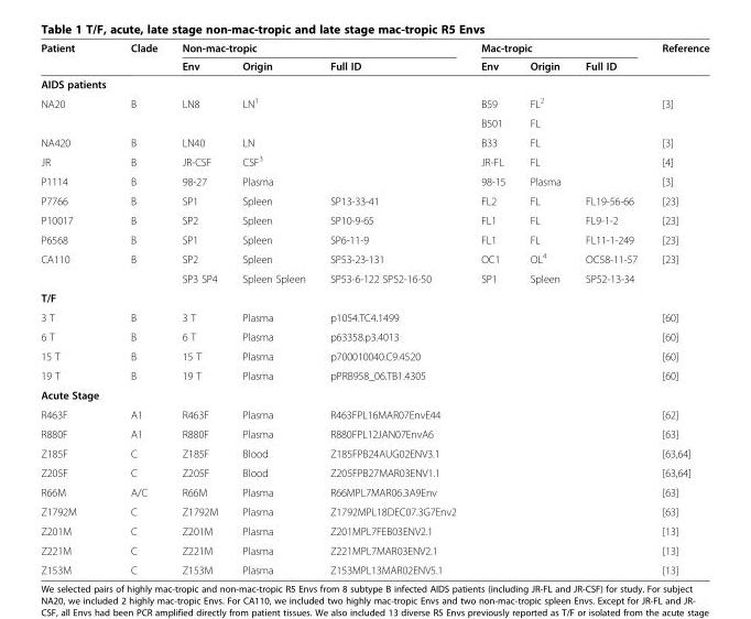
<table><thead><tr><td rowspan="2">Patient</td><td rowspan="2">Clade</td><td colspan="3">Non-mac-tropic</td><td colspan="3">Mac-tropic</td><td rowspan="2">Reference</td></tr><tr><td>Env</td><td>Origin</td><td>Full ID</td><td>Env</td><td>Origin</td><td>Full ID</td></tr></thead><tbody><tr><td colspan="9">AIDS patients</td></tr><tr><td rowspan="2">NA20</td><td>B</td><td>LN8</td><td>LN<sup>1</sup></td><td></td><td>B59</td><td>FL<sup>2</sup></td><td></td><td>[3]</td></tr><tr><td></td><td></td><td></td><td></td><td>B501</td><td>FL</td><td></td><td></td></tr><tr><td>NA420</td><td>B</td><td>LN40</td><td>LN</td><td></td><td>B33</td><td>FL</td><td></td><td>[3]</td></tr><tr><td>JR</td><td>B</td><td>JR-CSF</td><td>CSF<sup>3</sup></td><td></td><td>JR-FL</td><td>FL</td><td></td><td>[4]</td></tr><tr><td>P1114</td><td>B</td><td>98-27</td><td>Plasma</td><td></td><td>98-15</td><td>Plasma</td><td></td><td>[3]</td></tr><tr><td>P7766</td><td>B</td><td>SP1</td><td>Spleen</td><td>SP13-33-41</td><td>FL2</td><td>FL</td><td>FL19-56-66</td><td>[23]</td></tr><tr><td>P10017</td><td>B</td><td>SP2</td><td>Spleen</td><td>SP10-9-65</td><td>FL1</td><td>FL</td><td>FL9-1-2</td><td>[23]</td></tr><tr><td>P6568</td><td>B</td><td>SP1</td><td>Spleen</td><td>SP6-11-9</td><td>FL1</td><td>FL</td><td>FL11-1-249</td><td>[23]</td></tr><tr><td rowspan="2">CA110</td><td>B</td><td>SP2</td><td>Spleen</td><td>SP53-23-131</td><td>OC1</td><td>OL<sup>4</sup></td><td>OC58-11-57</td><td>[23]</td></tr><tr><td></td><td>SP3 SP4</td><td>Spleen Spleen</td><td>SP53-6-122 SP52-16-50</td><td>SP1</td><td>Spleen</td><td>SP52-13-34</td><td></td></tr><tr><td colspan="9">T/F</td></tr><tr><td>3 T</td><td>B</td><td>3 T</td><td>Plasma</td><td>p1054.TC4.1499</td><td></td><td></td><td></td><td>[60]</td></tr><tr><td>6 T</td><td>B</td><td>6 T</td><td>Plasma</td><td>p63358.p3.4013</td><td></td><td></td><td></td><td>[60]</td></tr><tr><td>15 T</td><td>B</td><td>15 T</td><td>Plasma</td><td>p700010040.C9.4520</td><td></td><td></td><td></td><td>[60]</td></tr><tr><td>19 T</td><td>B</td><td>19 T</td><td>Plasma</td><td>pPRB958_06.TB1.4305</td><td></td><td></td><td></td><td>[60]</td></tr><tr><td colspan="9">Acute Stage</td></tr><tr><td>R463F</td><td>A1</td><td>R463F</td><td>Plasma</td><td>R463FPL16MAR07EnvE44</td><td></td><td></td><td></td><td>[62]</td></tr><tr><td>R880F</td><td>A1</td><td>R880F</td><td>Plasma</td><td>R880FPL12JAN07EnvA6</td><td></td><td></td><td></td><td>[63]</td></tr><tr><td>Z185F</td><td>C</td><td>Z185F</td><td>Blood</td><td>Z185FPB24AUG02ENV3.1</td><td></td><td></td><td></td><td>[63,64]</td></tr><tr><td>Z205F</td><td>C</td><td>Z205F</td><td>Blood</td><td>Z205FPB27MAR03ENV1.1</td><td></td><td></td><td></td><td>[63,64]</td></tr><tr><td>R66M</td><td>A/C</td><td>R66M</td><td>Plasma</td><td>R66MPL7MAR06.3A9Env</td><td></td><td></td><td></td><td>[63]</td></tr><tr><td>Z1792M</td><td>C</td><td>Z1792M</td><td>Plasma</td><td>Z1792MPL18DEC07.3G7Env2</td><td></td><td></td><td></td><td>[63]</td></tr><tr><td>Z201M</td><td>C</td><td>Z201M</td><td>Plasma</td><td>Z201MPL7FEB03ENV2.1</td><td></td><td></td><td></td><td>[13]</td></tr><tr><td>Z221M</td><td>C</td><td>Z221M</td><td>Plasma</td><td>Z221MPL7MAR03ENV2.1</td><td></td><td></td><td></td><td>[13]</td></tr><tr><td>Z153M</td><td>C</td><td>Z153M</td><td>Plasma</td><td>Z153MPL13MAR02ENV5.1</td><td></td><td></td><td></td><td>[13]</td></tr></tbody></table>